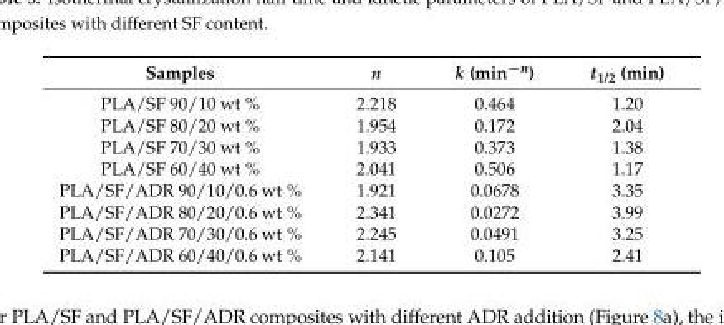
<table><thead><tr><td>Samples</td><td>n</td><td>k (min<sup>−n</sup>)</td><td>t<sub>1/2</sub> (min)</td></tr></thead><tbody><tr><td>PLA/SF 90/10 wt %</td><td>2.218</td><td>0.464</td><td>1.20</td></tr><tr><td>PLA/SF 80/20 wt %</td><td>1.954</td><td>0.172</td><td>2.04</td></tr><tr><td>PLA/SF 70/30 wt %</td><td>1.933</td><td>0.373</td><td>1.38</td></tr><tr><td>PLA/SF 60/40 wt %</td><td>2.041</td><td>0.506</td><td>1.17</td></tr><tr><td>PLA/SF/ADR 90/10/0.6 wt %</td><td>1.921</td><td>0.0678</td><td>3.35</td></tr><tr><td>PLA/SF/ADR 80/20/0.6 wt %</td><td>2.341</td><td>0.0272</td><td>3.99</td></tr><tr><td>PLA/SF/ADR 70/30/0.6 wt %</td><td>2.245</td><td>0.0491</td><td>3.25</td></tr><tr><td>PLA/SF/ADR 60/40/0.6 wt %</td><td>2.141</td><td>0.105</td><td>2.41</td></tr></tbody></table>